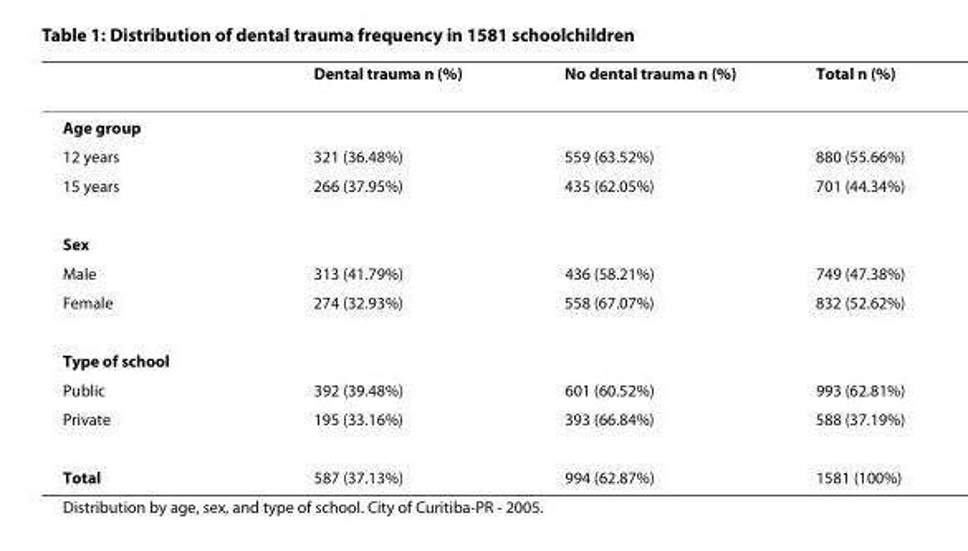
<table><thead><tr><td></td><td>Dental trauma n (%)</td><td>No dental trauma n (%)</td><td>Total n (%)</td></tr></thead><tbody><tr><td colspan="4">Age group</td></tr><tr><td>12 years</td><td>321 (36.48%)</td><td>559 (63.52%)</td><td>880 (55.66%)</td></tr><tr><td>15 years</td><td>266 (37.95%)</td><td>435 (62.05%)</td><td>701 (44.34%)</td></tr><tr><td colspan="4">Sex</td></tr><tr><td>Male</td><td>313 (41.79%)</td><td>436 (58.21%)</td><td>749 (47.38%)</td></tr><tr><td>Female</td><td>274 (32.93%)</td><td>558 (67.07%)</td><td>832 (52.62%)</td></tr><tr><td colspan="4">Type of school</td></tr><tr><td>Public</td><td>392 (39.48%)</td><td>601 (60.52%)</td><td>993 (62.81%)</td></tr><tr><td>Private</td><td>195 (33.16%)</td><td>393 (66.84%)</td><td>588 (37.19%)</td></tr><tr><td>Total</td><td>587 (37.13%)</td><td>994 (62.87%)</td><td>1581 (100%)</td></tr></tbody></table>